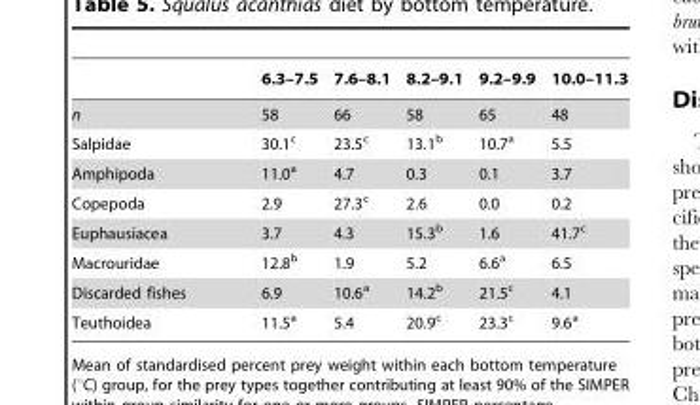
<table><thead><tr><td></td><td>6.3–7.5</td><td>7.6–8.1</td><td>8.2–9.1</td><td>9.2–9.9</td><td>10.0–11.3</td></tr></thead><tbody><tr><td>n</td><td>58</td><td>66</td><td>58</td><td>65</td><td>48</td></tr><tr><td>Salpidae</td><td>30.1<sup>c</sup></td><td>23.5<sup>c</sup></td><td>13.1<sup>b</sup></td><td>10.7<sup>a</sup></td><td>5.5</td></tr><tr><td>Amphipoda</td><td>11.0<sup>a</sup></td><td>4.7</td><td>0.3</td><td>0.1</td><td>3.7</td></tr><tr><td>Copepoda</td><td>2.9</td><td>27.3<sup>c</sup></td><td>2.6</td><td>0.0</td><td>0.2</td></tr><tr><td>Euphausiacea</td><td>3.7</td><td>4.3</td><td>15.3<sup>b</sup></td><td>1.6</td><td>41.7<sup>c</sup></td></tr><tr><td>Macrouridae</td><td>12.8<sup>b</sup></td><td>1.9</td><td>5.2</td><td>6.6<sup>a</sup></td><td>6.5</td></tr><tr><td>Discarded fishes</td><td>6.9</td><td>10.6<sup>a</sup></td><td>14.2<sup>b</sup></td><td>21.5<sup>c</sup></td><td>4.1</td></tr><tr><td>Teuthoidea</td><td>11.5<sup>a</sup></td><td>5.4</td><td>20.9<sup>c</sup></td><td>23.3<sup>c</sup></td><td>9.6<sup>a</sup></td></tr></tbody></table>